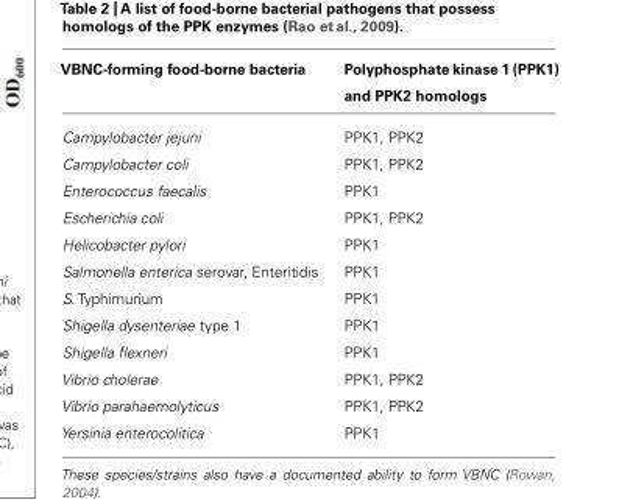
<table><thead><tr><td>VBNC-forming food-borne bacteria</td><td>Polyphosphate kinase 1 (PPK1) and PPK2 homologs</td></tr></thead><tbody><tr><td>Campylobacter jejuni</td><td>PPK1, PPK2</td></tr><tr><td>Campylobacter coli</td><td>PPK1, PPK2</td></tr><tr><td>Enterococcus faecalis</td><td>PPK1</td></tr><tr><td>Escherichia coli</td><td>PPK1, PPK2</td></tr><tr><td>Helicobacter pylori</td><td>PPK1</td></tr><tr><td>Salmonella enterica serovar, Enteritidis</td><td>PPK1</td></tr><tr><td>S. Typhimurium</td><td>PPK1</td></tr><tr><td>Shigella dysenteriae type 1</td><td>PPK1</td></tr><tr><td>Shigella flexneri</td><td>PPK1</td></tr><tr><td>Vibrio cholerae</td><td>PPK1, PPK2</td></tr><tr><td>Vibrio parahaemolyticus</td><td>PPK1, PPK2</td></tr><tr><td>Yersinia enterocolitica</td><td>PPK1</td></tr></tbody></table>